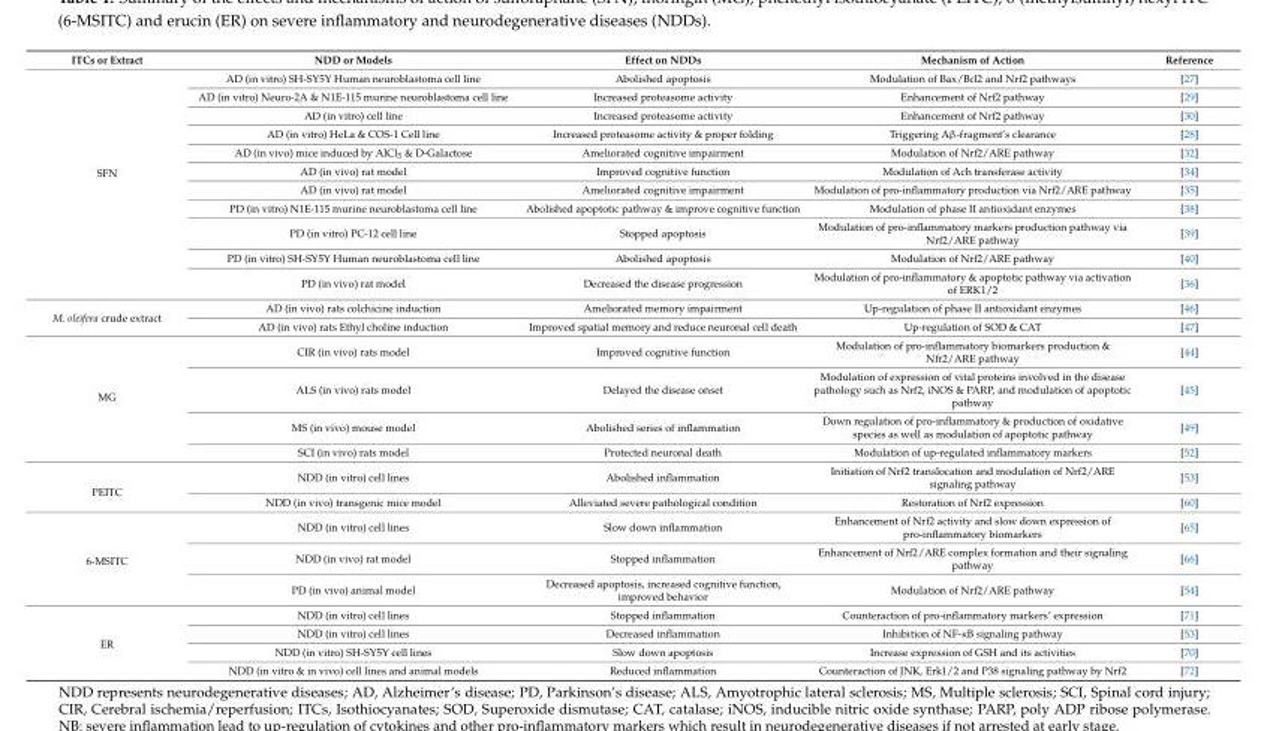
<table><thead><tr><td>ITCs or Extract</td><td>NDD or Models</td><td>Effect on NDDs</td><td>Mechanism of Action</td><td>Reference</td></tr></thead><tbody><tr><td rowspan="11">SFN</td><td>AD (in vitro) SH-SY5Y Human neuroblastoma cell line</td><td>Abolished apoptosis</td><td>Modulation of Bax/Bcl2 and Nrf2 pathways</td><td>[27]</td></tr><tr><td>AD (in vitro) Neuro-2A &amp; N1E-115 murine neuroblastoma cell line</td><td>Increased proteasome activity</td><td>Enhancement of Nrf2 pathway</td><td>[29]</td></tr><tr><td>AD (in vitro) cell line</td><td>Increased proteasome activity</td><td>Enhancement of Nrf2 pathway</td><td>[30]</td></tr><tr><td>AD (in vitro) HeLa &amp; COS-1 Cell line</td><td>Increased proteasome activity &amp; proper folding</td><td>Triggering Aβ-fragment’s clearance</td><td>[28]</td></tr><tr><td>AD (in vivo) mice induced by AlCl<sub>3</sub> &amp; D-Galactose</td><td>Ameliorated cognitive impairment</td><td>Modulation of Nrf2/ARE pathway</td><td>[32]</td></tr><tr><td>AD (in vivo) rat model</td><td>Improved cognitive function</td><td>Modulation of Ach transferase activity</td><td>[34]</td></tr><tr><td>AD (in vivo) rat model</td><td>Ameliorated cognitive impairment</td><td>Modulation of pro-inflammatory production via Nrf2/ARE pathway</td><td>[35]</td></tr><tr><td>PD (in vitro) N1E-115 murine neuroblastoma cell line</td><td>Abolished apoptotic pathway &amp; improve cognitive function</td><td>Modulation of phase II antioxidant enzymes</td><td>[38]</td></tr><tr><td>PD (in vitro) PC-12 cell line</td><td>Stopped apoptosis</td><td>Modulation of pro-inflammatory markers production pathway via Nrf2/ARE pathway</td><td>[39]</td></tr><tr><td>PD (in vitro) SH-SY5Y Human neuroblastoma cell line</td><td>Abolished apoptosis</td><td>Modulation of Nrf2/ARE pathway</td><td>[40]</td></tr><tr><td>PD (in vivo) rat model</td><td>Decreased the disease progression</td><td>Modulation of pro-inflammatory &amp; apoptotic pathway via activation of ERK1/2</td><td>[36]</td></tr><tr><td rowspan="2">M. oleifera crude extract</td><td>AD (in vivo) rats colchicine induction</td><td>Ameliorated memory impairment</td><td>Up-regulation of phase II antioxidant enzymes</td><td>[46]</td></tr><tr><td>AD (in vivo) rats Ethyl choline induction</td><td>Improved spatial memory and reduce neuronal cell death</td><td>Up-regulation of SOD &amp; CAT</td><td>[47]</td></tr><tr><td rowspan="4">MG</td><td>CIR (in vivo) rats model</td><td>Improved cognitive function</td><td>Modulation of pro-inflammatory biomarkers production &amp; Nfr2/ARE pathway</td><td>[44]</td></tr><tr><td>ALS (in vivo) rats model</td><td>Delayed the disease onset</td><td>Modulation of expression of vital proteins involved in the disease pathology such as Nrf2, iNOS &amp; PARP, and modulation of apoptotic pathway</td><td>[45]</td></tr><tr><td>MS (in vivo) mouse model</td><td>Abolished series of inflammation</td><td>Down regulation of pro-inflammatory &amp; production of oxidative species as well as modulation of apoptotic pathway</td><td>[49]</td></tr><tr><td>SCI (in vivo) rats model</td><td>Protected neuronal death</td><td>Modulation of up-regulated inflammatory markers</td><td>[52]</td></tr><tr><td rowspan="2">PEITC</td><td>NDD (in vitro) cell lines</td><td>Abolished inflammation</td><td>Initiation of Nrf2 translocation and modulation of Nrf2/ARE signaling pathway</td><td>[53]</td></tr><tr><td>NDD (in vivo) transgenic mice model</td><td>Alleviated severe pathological condition</td><td>Restoration of Nrf2 expression</td><td>[60]</td></tr><tr><td rowspan="3">6-MSITC</td><td>NDD (in vitro) cell lines</td><td>Slow down inflammation</td><td>Enhancement of Nrf2 activity and slow down expression of pro-inflammatory biomarkers</td><td>[65]</td></tr><tr><td>NDD (in vivo) rat model</td><td>Stopped inflammation</td><td>Enhancement of Nrf2/ARE complex formation and their signaling pathway</td><td>[66]</td></tr><tr><td>PD (in vivo) animal model</td><td>Decreased apoptosis, increased cognitive function, improved behavior</td><td>Modulation of Nrf2/ARE pathway</td><td>[54]</td></tr><tr><td rowspan="4">ER</td><td>NDD (in vitro) cell lines</td><td>Stopped inflammation</td><td>Counteraction of pro-inflammatory markers’ expression</td><td>[71]</td></tr><tr><td>NDD (in vitro) cell lines</td><td>Decreased inflammation</td><td>Inhibition of NF-κB signaling pathway</td><td>[53]</td></tr><tr><td>NDD (in vitro) SH-SY5Y cell lines</td><td>Slow down apoptosis</td><td>Increase expression of GSH and its activities</td><td>[70]</td></tr><tr><td>NDD (in vitro &amp; in vivo) cell lines and animal models</td><td>Reduced inflammation</td><td>Counteraction of JNK, Erk1/2 and P38 signaling pathway by Nrf2</td><td>[72]</td></tr></tbody></table>